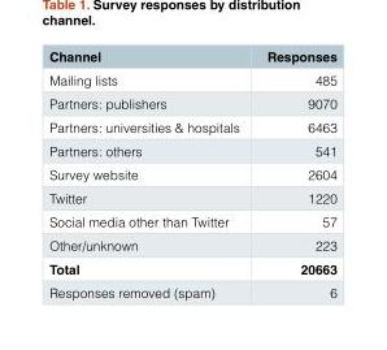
<table><thead><tr><td>Channel</td><td>Responses</td></tr></thead><tbody><tr><td>Mailing lists</td><td>485</td></tr><tr><td>Partners: publishers</td><td>9070</td></tr><tr><td>Partners: universities &amp; hospitals</td><td>6463</td></tr><tr><td>Partners: others</td><td>541</td></tr><tr><td>Survey website</td><td>2604</td></tr><tr><td>Twitter</td><td>1220</td></tr><tr><td>Social media other than Twitter</td><td>57</td></tr><tr><td>Other/unknown</td><td>223</td></tr><tr><td>Total</td><td>20663</td></tr><tr><td>Responses removed (spam)</td><td>6</td></tr></tbody></table>